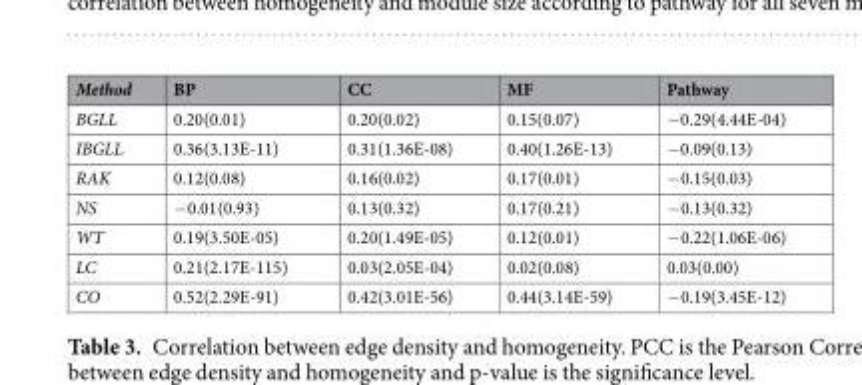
<table><thead><tr><td>Method</td><td>BP</td><td>CC</td><td>MF</td><td>Pathway</td></tr></thead><tbody><tr><td>BGLL</td><td>0.20(0.01)</td><td>0.20(0.02)</td><td>0.15(0.07)</td><td>−0.29(4.44E-04)</td></tr><tr><td>IBGLL</td><td>0.36(3.13E-11)</td><td>0.31(1.36E-08)</td><td>0.40(1.26E-13)</td><td>−0.09(0.13)</td></tr><tr><td>RAK</td><td>0.12(0.08)</td><td>0.16(0.02)</td><td>0.17(0.01)</td><td>−0.15(0.03)</td></tr><tr><td>NS</td><td>−0.01(0.93)</td><td>0.13(0.32)</td><td>0.17(0.21)</td><td>−0.13(0.32)</td></tr><tr><td>WT</td><td>0.19(3.50E-05)</td><td>0.20(1.49E-05)</td><td>0.12(0.01)</td><td>−0.22(1.06E-06)</td></tr><tr><td>LC</td><td>0.21(2.17E-115)</td><td>0.03(2.05E-04)</td><td>0.02(0.08)</td><td>0.03(0.00)</td></tr><tr><td>CO</td><td>0.52(2.29E-91)</td><td>0.42(3.01E-56)</td><td>0.44(3.14E-59)</td><td>−0.19(3.45E-12)</td></tr></tbody></table>